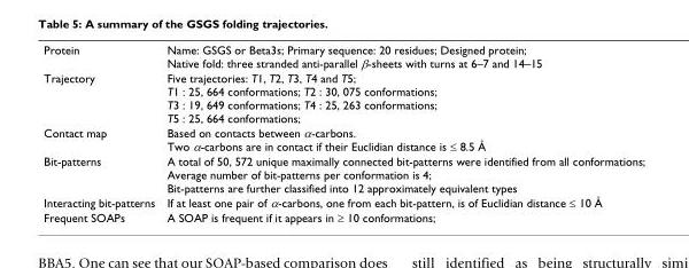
<table><tbody><tr><td>Protein</td><td>Name: GSGS or Beta3s; Primary sequence: 20 residues; Designed protein; Native fold: three stranded anti-parallel β-sheets with turns at 6–7 and 14–15</td></tr><tr><td>Trajectory</td><td>Five trajectories: T1, T2, T3, T4 and T5; T1 : 25, 664 conformations; T2 : 30, 075 conformations; T3 : 19, 649 conformations; T4 : 25, 263 conformations; T5 : 25, 664 conformations;</td></tr><tr><td>Contact map</td><td>Based on contacts between α-carbons. Two α-carbons are in contact if their Euclidian distance is ≤ 8.5 Å</td></tr><tr><td>Bit-patterns</td><td>A total of 50, 572 unique maximally connected bit-patterns were identified from all conformations; Average number of bit-patterns per conformation is 4; Bit-patterns are further classified into 12 approximately equivalent types</td></tr><tr><td>Interacting bit-patterns</td><td>If at least one pair of α-carbons, one from each bit-pattern, is of Euclidian distance ≤ 10 Å</td></tr><tr><td>Frequent SOAPs</td><td>A SOAP is frequent if it appears in ≥ 10 conformations;</td></tr></tbody></table>